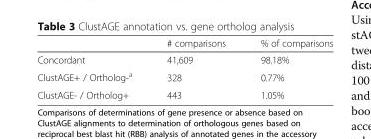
<table><thead><tr><td></td><td># comparisons</td><td>% of comparisons</td></tr></thead><tbody><tr><td>Concordant</td><td>41,609</td><td>98.18%</td></tr><tr><td>ClustAGE+ / Ortholog-<sup>a</sup></td><td>328</td><td>0.77%</td></tr><tr><td>ClustAGE- / Ortholog+</td><td>443</td><td>1.05%</td></tr></tbody></table>